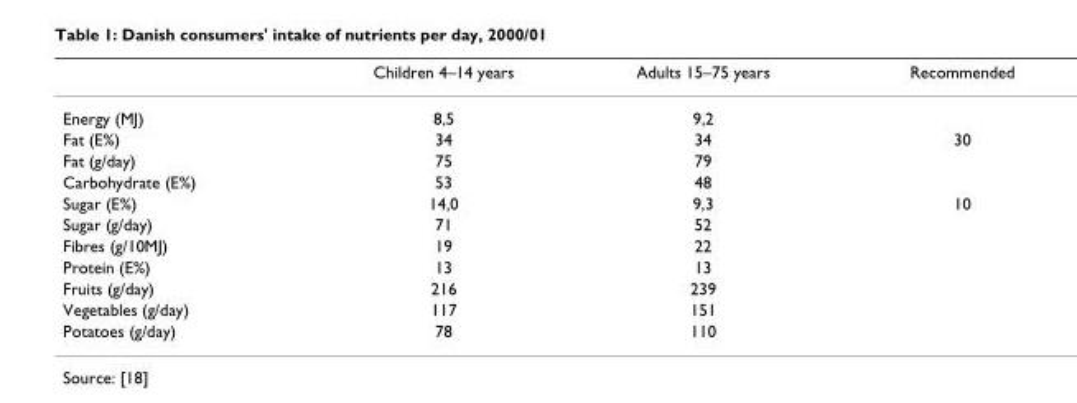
<table><thead><tr><td></td><td>Children 4–14 years</td><td>Adults 15–75 years</td><td>Recommended</td></tr></thead><tbody><tr><td>Energy (MJ)</td><td>8,5</td><td>9,2</td><td></td></tr><tr><td>Fat (E%)</td><td>34</td><td>34</td><td>30</td></tr><tr><td>Fat (g/day)</td><td>75</td><td>79</td><td></td></tr><tr><td>Carbohydrate (E%)</td><td>53</td><td>48</td><td></td></tr><tr><td>Sugar (E%)</td><td>14,0</td><td>9,3</td><td>10</td></tr><tr><td>Sugar (g/day)</td><td>71</td><td>52</td><td></td></tr><tr><td>Fibres (g/10MJ)</td><td>19</td><td>22</td><td></td></tr><tr><td>Protein (E%)</td><td>13</td><td>13</td><td></td></tr><tr><td>Fruits (g/day)</td><td>216</td><td>239</td><td></td></tr><tr><td>Vegetables (g/day)</td><td>117</td><td>151</td><td></td></tr><tr><td>Potatoes (g/day)</td><td>78</td><td>110</td><td></td></tr></tbody></table>